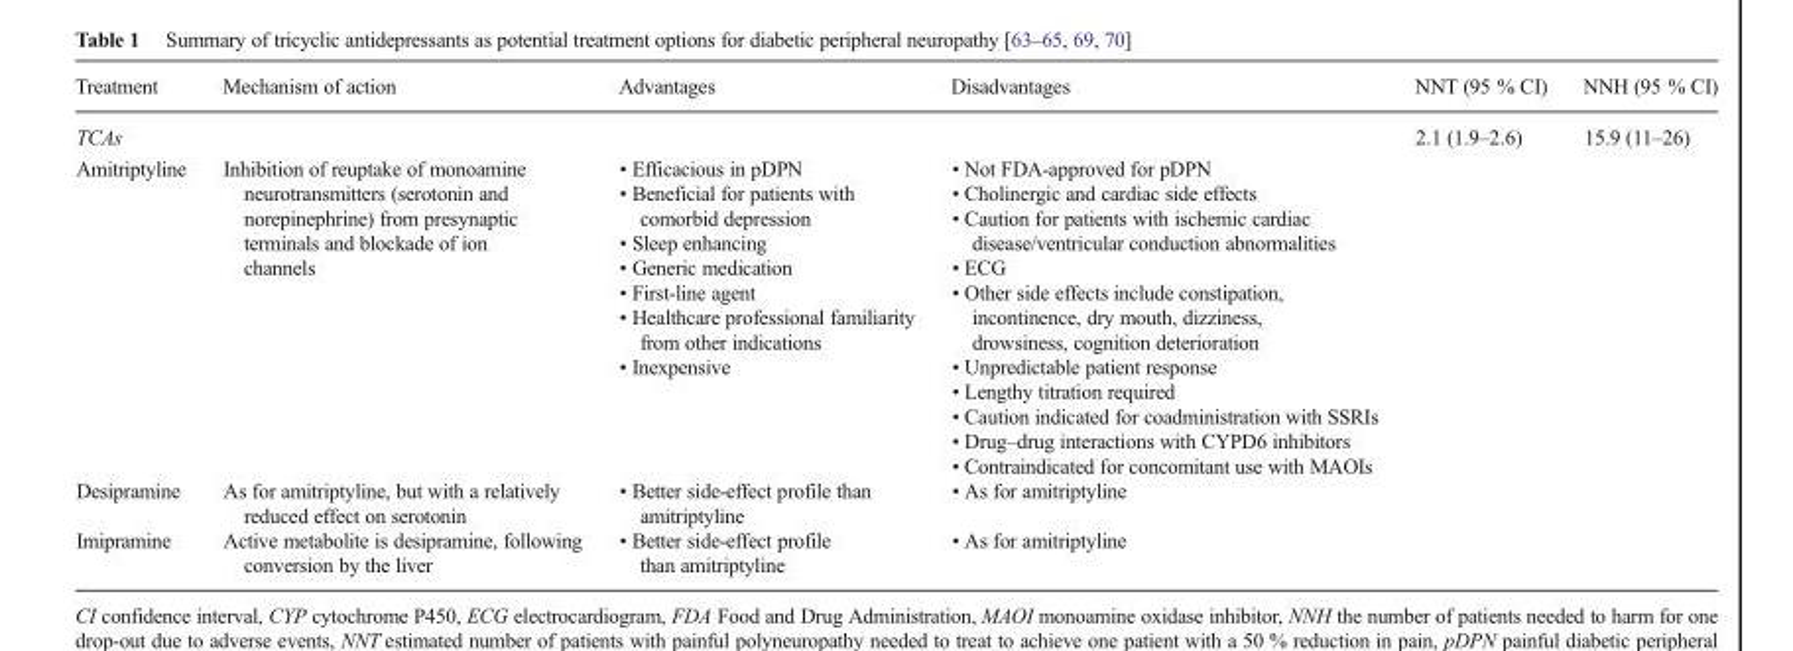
<table><thead><tr><td>Treatment</td><td>Mechanism of action</td><td>Advantages</td><td>Disadvantages</td><td>NNT (95 % CI)</td><td>NNH (95 % CI)</td></tr></thead><tbody><tr><td>TCAs</td><td></td><td></td><td></td><td>2.1 (1.9–2.6)</td><td>15.9 (11–26)</td></tr><tr><td>Amitriptyline</td><td>Inhibition of reuptake of monoamine neurotransmitters (serotonin and norepinephrine) from presynaptic terminals and blockade of ion channels</td><td>• Efficacious in pDPN • Beneficial for patients with comorbid depression • Sleep enhancing • Generic medication • First-line agent • Healthcare professional familiarity from other indications • Inexpensive</td><td>• Not FDA-approved for pDPN • Cholinergic and cardiac side effects • Caution for patients with ischemic cardiac disease/ventricular conduction abnormalities • ECG • Other side effects include constipation, incontinence, dry mouth, dizziness, drowsiness, cognition deterioration • Unpredictable patient response • Lengthy titration required • Caution indicated for coadministration with SSRIs • Drug–drug interactions with CYPD6 inhibitors • Contraindicated for concomitant use with MAOIs</td><td></td><td></td></tr><tr><td>Desipramine</td><td>As for amitriptyline, but with a relatively reduced effect on serotonin</td><td>• Better side-effect profile than amitriptyline</td><td>• As for amitriptyline</td><td></td><td></td></tr><tr><td>Imipramine</td><td>Active metabolite is desipramine, following conversion by the liver</td><td>• Better side-effect profile than amitriptyline</td><td>• As for amitriptyline</td><td></td><td></td></tr></tbody></table>